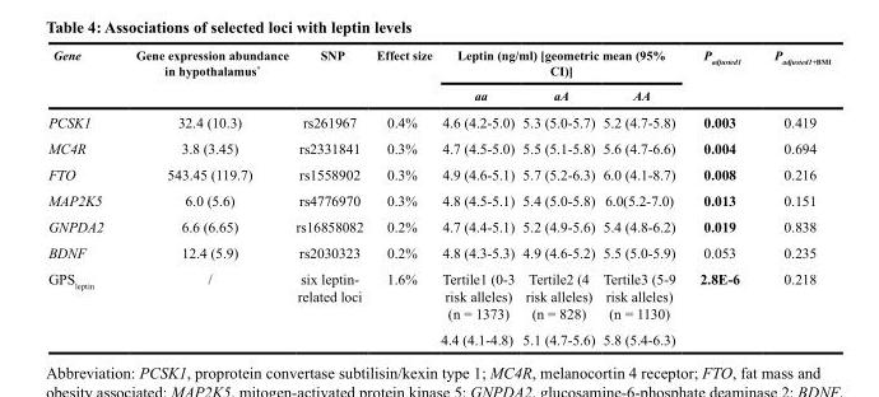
<table><thead><tr><td rowspan="2">Gene</td><td rowspan="2">Gene expression abundance in hypothalamus*</td><td rowspan="2">SNP</td><td rowspan="2">Effect size</td><td colspan="3">Leptin (ng/ml) [geometric mean (95% CI)]</td><td rowspan="2">P<sub>adjusted1</sub></td><td rowspan="2">P<sub>adjusted1+BMI</sub></td></tr><tr><td>aa</td><td>aA</td><td>AA</td></tr></thead><tbody><tr><td>PCSK1</td><td>32.4 (10.3)</td><td>rs261967</td><td>0.4%</td><td>4.6 (4.2-5.0)</td><td>5.3 (5.0-5.7)</td><td>5.2 (4.7-5.8)</td><td>0.003</td><td>0.419</td></tr><tr><td>MC4R</td><td>3.8 (3.45)</td><td>rs2331841</td><td>0.3%</td><td>4.7 (4.5-5.0)</td><td>5.5 (5.1-5.8)</td><td>5.6 (4.7-6.6)</td><td>0.004</td><td>0.694</td></tr><tr><td>FTO</td><td>543.45 (119.7)</td><td>rs1558902</td><td>0.3%</td><td>4.9 (4.6-5.1)</td><td>5.7 (5.2-6.3)</td><td>6.0 (4.1-8.7)</td><td>0.008</td><td>0.216</td></tr><tr><td>MAP2K5</td><td>6.0 (5.6)</td><td>rs4776970</td><td>0.3%</td><td>4.8 (4.5-5.1)</td><td>5.4 (5.0-5.8)</td><td>6.0(5.2-7.0)</td><td>0.013</td><td>0.151</td></tr><tr><td>GNPDA2</td><td>6.6 (6.65)</td><td>rs16858082</td><td>0.2%</td><td>4.7 (4.4-5.1)</td><td>5.2 (4.9-5.6)</td><td>5.4 (4.8-6.2)</td><td>0.019</td><td>0.838</td></tr><tr><td>BDNF</td><td>12.4 (5.9)</td><td>rs2030323</td><td>0.2%</td><td>4.8 (4.3-5.3)</td><td>4.9 (4.6-5.2)</td><td>5.5 (5.0-5.9)</td><td>0.053</td><td>0.235</td></tr><tr><td rowspan="2">GPS<sub>leptin</sub></td><td rowspan="2">/</td><td rowspan="2">six leptin- related loci</td><td rowspan="2">1.6%</td><td>Tertile1 (0-3 risk alleles) (n = 1373)</td><td>Tertile2 (4 risk alleles) (n = 828)</td><td>Tertile3 (5-9 risk alleles) (n = 1130)</td><td rowspan="2">2.8E-6</td><td>0.218</td></tr><tr><td>4.4 (4.1-4.8)</td><td>5.1 (4.7-5.6)</td><td>5.8 (5.4-6.3)</td><td></td></tr></tbody></table>